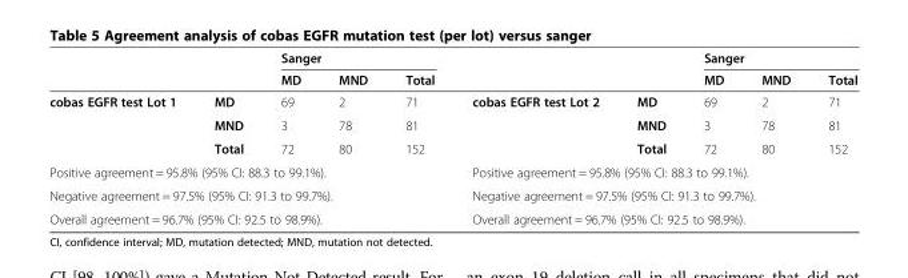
<table><thead><tr><td rowspan="2"></td><td rowspan="2"></td><td colspan="3">Sanger</td><td rowspan="2"></td><td rowspan="2"></td><td colspan="3">Sanger</td></tr><tr><td>MD</td><td>MND</td><td>Total</td><td>MD</td><td>MND</td><td>Total</td></tr></thead><tbody><tr><td rowspan="3">cobas EGFR test Lot 1</td><td>MD</td><td>69</td><td>2</td><td>71</td><td rowspan="3">cobas EGFR test Lot 2</td><td>MD</td><td>69</td><td>2</td><td>71</td></tr><tr><td>MND</td><td>3</td><td>78</td><td>81</td><td>MND</td><td>3</td><td>78</td><td>81</td></tr><tr><td>Total</td><td>72</td><td>80</td><td>152</td><td>Total</td><td>72</td><td>80</td><td>152</td></tr><tr><td colspan="5">Positive agreement = 95.8% (95% CI: 88.3 to 99.1%).</td><td colspan="5">Positive agreement = 95.8% (95% CI: 88.3 to 99.1%).</td></tr><tr><td colspan="5">Negative agreement = 97.5% (95% CI: 91.3 to 99.7%).</td><td colspan="5">Negative agreement = 97.5% (95% CI: 91.3 to 99.7%).</td></tr><tr><td colspan="5">Overall agreement = 96.7% (95% CI: 92.5 to 98.9%).</td><td colspan="5">Overall agreement = 96.7% (95% CI: 92.5 to 98.9%).</td></tr></tbody></table>